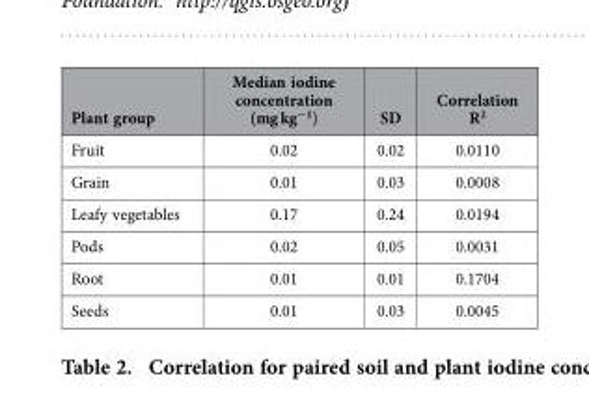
<table><thead><tr><td>Plant group</td><td>Median iodine concentration (mg kg<sup>−1</sup>)</td><td>SD</td><td>Correlation R<sup>2</sup></td></tr></thead><tbody><tr><td>Fruit</td><td>0.02</td><td>0.02</td><td>0.0110</td></tr><tr><td>Grain</td><td>0.01</td><td>0.03</td><td>0.0008</td></tr><tr><td>Leafy vegetables</td><td>0.17</td><td>0.24</td><td>0.0194</td></tr><tr><td>Pods</td><td>0.02</td><td>0.05</td><td>0.0031</td></tr><tr><td>Root</td><td>0.01</td><td>0.01</td><td>0.1704</td></tr><tr><td>Seeds</td><td>0.01</td><td>0.03</td><td>0.0045</td></tr></tbody></table>